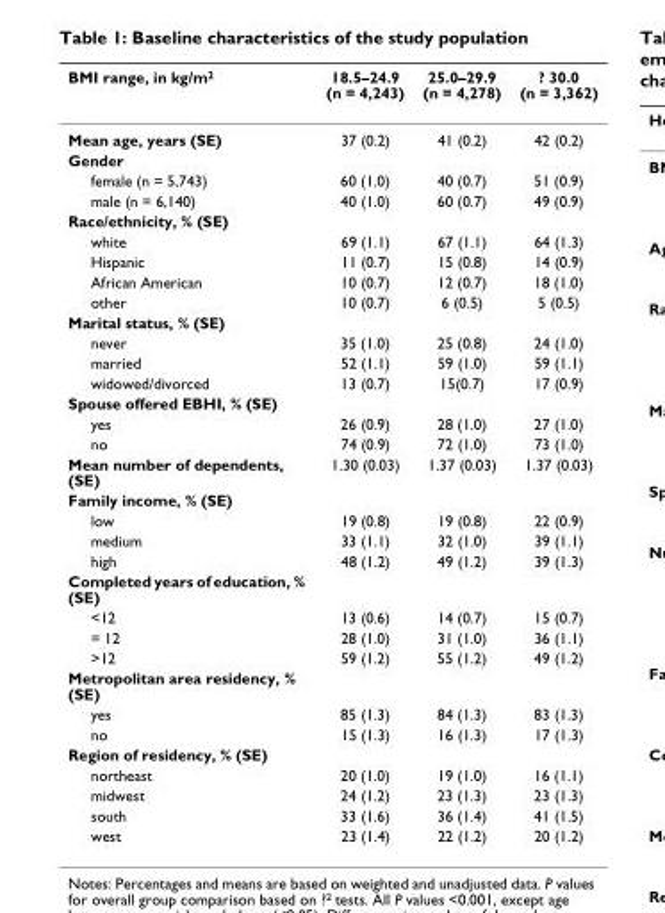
<table><thead><tr><td>BMI range, in kg/m<sup>2</sup></td><td>18.5–24.9 (n = 4,243)</td><td>25.0–29.9 (n = 4,278)</td><td>≥ 30.0 (n = 3,362)</td></tr></thead><tbody><tr><td>Mean age, years (SE)</td><td>37 (0.2)</td><td>41 (0.2)</td><td>42 (0.2)</td></tr><tr><td colspan="4">Gender</td></tr><tr><td>female (n = 5,743)</td><td>60 (1.0)</td><td>40 (0.7)</td><td>51 (0.9)</td></tr><tr><td>male (n = 6,140)</td><td>40 (1.0)</td><td>60 (0.7)</td><td>49 (0.9)</td></tr><tr><td colspan="4">Race/ethnicity, % (SE)</td></tr><tr><td>white</td><td>69 (1.1)</td><td>67 (1.1)</td><td>64 (1.3)</td></tr><tr><td>Hispanic</td><td>11 (0.7)</td><td>15 (0.8)</td><td>14 (0.9)</td></tr><tr><td>African American</td><td>10 (0.7)</td><td>12 (0.7)</td><td>18 (1.0)</td></tr><tr><td>other</td><td>10 (0.7)</td><td>6 (0.5)</td><td>5 (0.5)</td></tr><tr><td colspan="4">Marital status, % (SE)</td></tr><tr><td>never</td><td>35 (1.0)</td><td>25 (0.8)</td><td>24 (1.0)</td></tr><tr><td>married</td><td>52 (1.1)</td><td>59 (1.0)</td><td>59 (1.1)</td></tr><tr><td>widowed/divorced</td><td>13 (0.7)</td><td>15(0.7)</td><td>17 (0.9)</td></tr><tr><td colspan="4">Spouse offered EBHI, % (SE)</td></tr><tr><td>yes</td><td>26 (0.9)</td><td>28 (1.0)</td><td>27 (1.0)</td></tr><tr><td>no</td><td>74 (0.9)</td><td>72 (1.0)</td><td>73 (1.0)</td></tr><tr><td>Mean number of dependents, (SE)</td><td>1.30 (0.03)</td><td>1.37 (0.03)</td><td>1.37 (0.03)</td></tr><tr><td colspan="4">Family income, % (SE)</td></tr><tr><td>low</td><td>19 (0.8)</td><td>19 (0.8)</td><td>22 (0.9)</td></tr><tr><td>medium</td><td>33 (1.1)</td><td>32 (1.0)</td><td>39 (1.1)</td></tr><tr><td>high</td><td>48 (1.2)</td><td>49 (1.2)</td><td>39 (1.3)</td></tr><tr><td colspan="4">Completed years of education, % (SE)</td></tr><tr><td>&lt;12</td><td>13 (0.6)</td><td>14 (0.7)</td><td>15 (0.7)</td></tr><tr><td>= 12</td><td>28 (1.0)</td><td>31 (1.0)</td><td>36 (1.1)</td></tr><tr><td>&gt;12</td><td>59 (1.2)</td><td>55 (1.2)</td><td>49 (1.2)</td></tr><tr><td colspan="4">Metropolitan area residency, % (SE)</td></tr><tr><td>yes</td><td>85 (1.3)</td><td>84 (1.3)</td><td>83 (1.3)</td></tr><tr><td>no</td><td>15 (1.3)</td><td>16 (1.3)</td><td>17 (1.3)</td></tr><tr><td colspan="4">Region of residency, % (SE)</td></tr><tr><td>northeast</td><td>20 (1.0)</td><td>19 (1.0)</td><td>16 (1.1)</td></tr><tr><td>midwest</td><td>24 (1.2)</td><td>23 (1.3)</td><td>23 (1.3)</td></tr><tr><td>south</td><td>33 (1.6)</td><td>36 (1.4)</td><td>41 (1.5)</td></tr><tr><td>west</td><td>23 (1.4)</td><td>22 (1.2)</td><td>20 (1.2)</td></tr></tbody></table>